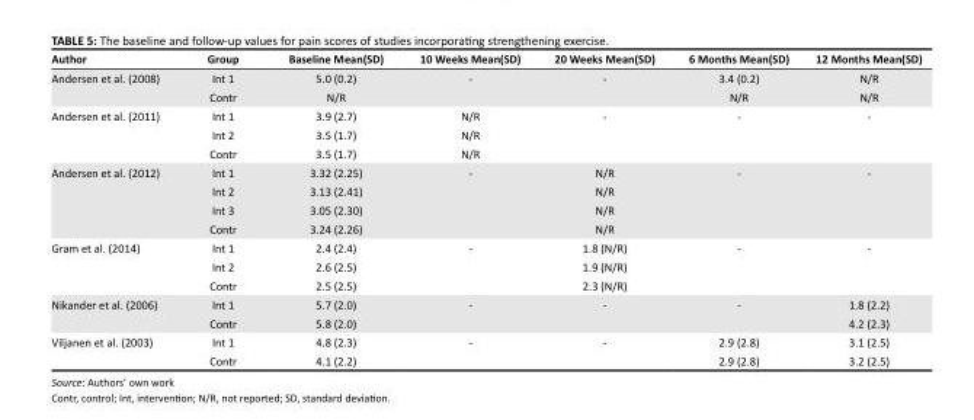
<table><thead><tr><td>Author</td><td>Group</td><td>Baseline Mean(SD)</td><td>10 Weeks Mean(SD)</td><td>20 Weeks Mean(SD)</td><td>6 Months Mean(SD)</td><td>12 Months Mean(SD)</td></tr></thead><tbody><tr><td rowspan="2">Andersen et al. (2008)</td><td>Int 1</td><td>5.0 (0.2)</td><td>-</td><td>-</td><td>3.4 (0.2)</td><td>N/R</td></tr><tr><td>Contr</td><td>N/R</td><td></td><td></td><td>N/R</td><td>N/R</td></tr><tr><td rowspan="3">Andersen et al. (2011)</td><td>Int 1</td><td>3.9 (2.7)</td><td>N/R</td><td>-</td><td>-</td><td>-</td></tr><tr><td>Int 2</td><td>3.5 (1.7)</td><td>N/R</td><td></td><td></td><td></td></tr><tr><td>Contr</td><td>3.5 (1.7)</td><td>N/R</td><td></td><td></td><td></td></tr><tr><td rowspan="4">Andersen et al. (2012)</td><td>Int 1</td><td>3.32 (2.25)</td><td>-</td><td>N/R</td><td>-</td><td>-</td></tr><tr><td>Int 2</td><td>3.13 (2.41)</td><td></td><td>N/R</td><td></td><td></td></tr><tr><td>Int 3</td><td>3.05 (2.30)</td><td></td><td>N/R</td><td></td><td></td></tr><tr><td>Contr</td><td>3.24 (2.26)</td><td></td><td>N/R</td><td></td><td></td></tr><tr><td rowspan="3">Gram et al. (2014)</td><td>Int 1</td><td>2.4 (2.4)</td><td>-</td><td>1.8 (N/R)</td><td>-</td><td>-</td></tr><tr><td>Int 2</td><td>2.6 (2.5)</td><td></td><td>1.9 (N/R)</td><td></td><td></td></tr><tr><td>Contr</td><td>2.5 (2.5)</td><td></td><td>2.3 (N/R)</td><td></td><td></td></tr><tr><td rowspan="2">Nikander et al. (2006)</td><td>Int 1</td><td>5.7 (2.0)</td><td>-</td><td>-</td><td>-</td><td>1.8 (2.2)</td></tr><tr><td>Contr</td><td>5.8 (2.0)</td><td></td><td></td><td></td><td>4.2 (2.3)</td></tr><tr><td rowspan="2">Viljanen et al. (2003)</td><td>Int 1</td><td>4.8 (2.3)</td><td>-</td><td>-</td><td>2.9 (2.8)</td><td>3.1 (2.5)</td></tr><tr><td>Contr</td><td>4.1 (2.2)</td><td></td><td></td><td>2.9 (2.8)</td><td>3.2 (2.5)</td></tr></tbody></table>